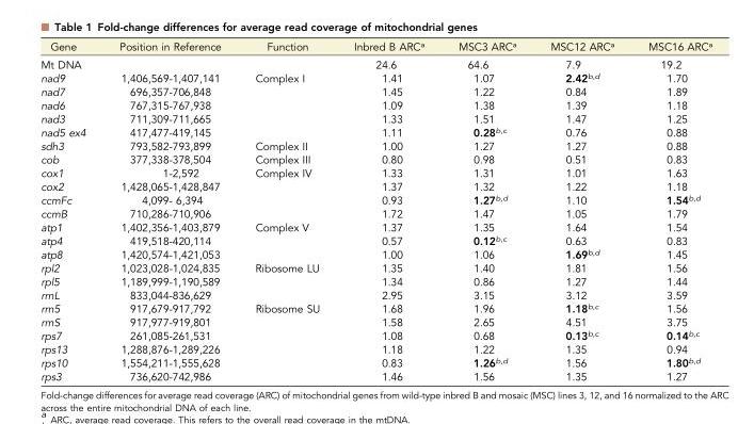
<table><thead><tr><td>Gene</td><td>Position in Reference</td><td>Function</td><td>Inbred B ARC<sup>a</sup></td><td>MSC3 ARC<sup>a</sup></td><td>MSC12 ARC<sup>a</sup></td><td>MSC16 ARC<sup>a</sup></td></tr></thead><tbody><tr><td>Mt DNA</td><td></td><td></td><td>24.6</td><td>64.6</td><td>7.9</td><td>19.2</td></tr><tr><td>nad9</td><td>1,406,569-1,407,141</td><td>Complex I</td><td>1.41</td><td>1.07</td><td>2.42<sup>b,d</sup></td><td>1.70</td></tr><tr><td>nad7</td><td>696,357-706,848</td><td></td><td>1.45</td><td>1.22</td><td>0.84</td><td>1.89</td></tr><tr><td>nad6</td><td>767,315-767,938</td><td></td><td>1.09</td><td>1.38</td><td>1.39</td><td>1.18</td></tr><tr><td>nad3</td><td>711,309-711,665</td><td></td><td>1.33</td><td>1.51</td><td>1.47</td><td>1.25</td></tr><tr><td>nad5 ex4</td><td>417,477-419,145</td><td></td><td>1.11</td><td>0.28<sup>b,c</sup></td><td>0.76</td><td>0.88</td></tr><tr><td>sdh3</td><td>793,582-793,899</td><td>Complex II</td><td>1.00</td><td>1.27</td><td>1.27</td><td>0.88</td></tr><tr><td>cob</td><td>377,338-378,504</td><td>Complex III</td><td>0.80</td><td>0.98</td><td>0.51</td><td>0.83</td></tr><tr><td>cox1</td><td>1-2,592</td><td>Complex IV</td><td>1.33</td><td>1.31</td><td>1.01</td><td>1.63</td></tr><tr><td>cox2</td><td>1,428,065-1,428,847</td><td></td><td>1.37</td><td>1.32</td><td>1.22</td><td>1.18</td></tr><tr><td>ccmFc</td><td>4,099- 6,394</td><td></td><td>0.93</td><td>1.27<sup>b,d</sup></td><td>1.10</td><td>1.54<sup>b,d</sup></td></tr><tr><td>ccmB</td><td>710,286-710,906</td><td></td><td>1.72</td><td>1.47</td><td>1.05</td><td>1.79</td></tr><tr><td>atp1</td><td>1,402,356-1,403,879</td><td>Complex V</td><td>1.37</td><td>1.35</td><td>1.64</td><td>1.54</td></tr><tr><td>atp4</td><td>419,518-420,114</td><td></td><td>0.57</td><td>0.12<sup>b,c</sup></td><td>0.63</td><td>0.83</td></tr><tr><td>atp8</td><td>1,420,574-1,421,053</td><td></td><td>1.00</td><td>1.06</td><td>1.69<sup>b,d</sup></td><td>1.45</td></tr><tr><td>rpl2</td><td>1,023,028-1,024,835</td><td>Ribosome LU</td><td>1.35</td><td>1.40</td><td>1.81</td><td>1.56</td></tr><tr><td>rpl5</td><td>1,189,999-1,190,589</td><td></td><td>1.34</td><td>0.86</td><td>1.27</td><td>1.44</td></tr><tr><td>rrnL</td><td>833,044-836,629</td><td></td><td>2.95</td><td>3.15</td><td>3.12</td><td>3.59</td></tr><tr><td>rrn5</td><td>917,679-917,792</td><td>Ribosome SU</td><td>1.68</td><td>1.96</td><td>1.18<sup>b,c</sup></td><td>1.56</td></tr><tr><td>rrnS</td><td>917,977-919,801</td><td></td><td>1.58</td><td>2.65</td><td>4.51</td><td>3.75</td></tr><tr><td>rps7</td><td>261,085-261,531</td><td></td><td>1.08</td><td>0.68</td><td>0.13<sup>b,c</sup></td><td>0.14<sup>b,c</sup></td></tr><tr><td>rps13</td><td>1,288,876-1,289,226</td><td></td><td>1.18</td><td>1.22</td><td>1.35</td><td>0.94</td></tr><tr><td>rps10</td><td>1,554,211-1,555,628</td><td></td><td>0.83</td><td>1.26<sup>b,d</sup></td><td>1.56</td><td>1.80<sup>b,d</sup></td></tr><tr><td>rps3</td><td>736,620-742,986</td><td></td><td>1.46</td><td>1.56</td><td>1.35</td><td>1.27</td></tr></tbody></table>